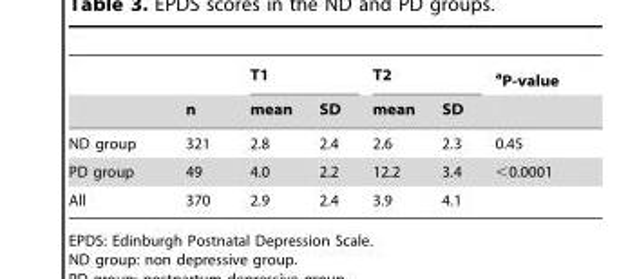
<table><thead><tr><td rowspan="2"></td><td rowspan="2">n</td><td colspan="2">T1</td><td colspan="2">T2</td><td rowspan="2"><sup>a</sup>P-value</td></tr><tr><td>mean</td><td>SD</td><td>mean</td><td>SD</td></tr></thead><tbody><tr><td>ND group</td><td>321</td><td>2.8</td><td>2.4</td><td>2.6</td><td>2.3</td><td>0.45</td></tr><tr><td>PD group</td><td>49</td><td>4.0</td><td>2.2</td><td>12.2</td><td>3.4</td><td>&lt;0.0001</td></tr><tr><td>All</td><td>370</td><td>2.9</td><td>2.4</td><td>3.9</td><td>4.1</td><td></td></tr></tbody></table>